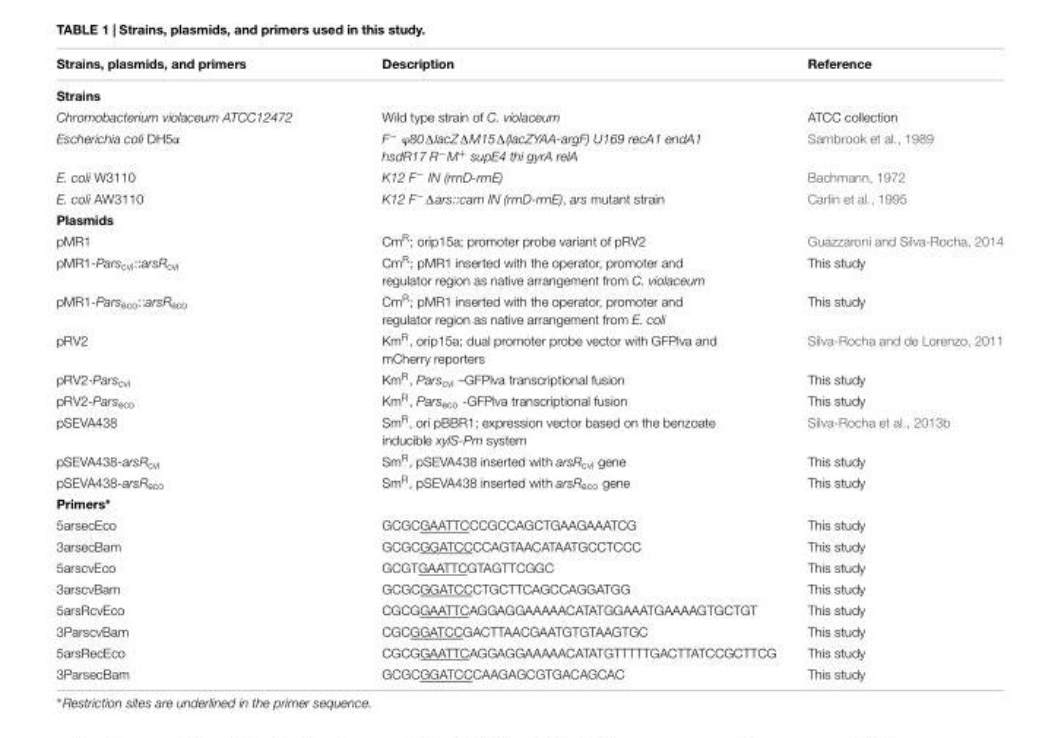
<table><thead><tr><td>Strains, plasmids, and primers</td><td>Description</td><td>Reference</td></tr></thead><tbody><tr><td colspan="3">Strains</td></tr><tr><td>Chromobacterium violaceum ATCC12472</td><td>Wild type strain of C. violaceum</td><td>ATCC collection</td></tr><tr><td>Escherichia coli DH5α</td><td>F<sup>−</sup> ϕ80ΔlacZΔM15Δ(lacZYAA-argF) U169 recA1 endA1 hsdR17 R<sup>−</sup>M<sup>+</sup> supE4 thi gyrA relA</td><td>Sambrook et al., 1989</td></tr><tr><td>E. coli W3110</td><td>K12 F<sup>−</sup> IN (rrnD-rrnE)</td><td>Bachmann, 1972</td></tr><tr><td>E. coli AW3110</td><td>K12 F<sup>−</sup>Δars::cam IN (rrnD-rrnE), ars mutant strain</td><td>Carlin et al., 1995</td></tr><tr><td colspan="3">Plasmids</td></tr><tr><td>pMR1</td><td>Cm<sup>R</sup>; orip15a; promoter probe variant of pRV2</td><td>Guazzaroni and Silva-Rocha, 2014</td></tr><tr><td>pMR1-Pars<sub>cvi</sub>::arsR<sub>cvi</sub></td><td>Cm<sup>R</sup>; pMR1 inserted with the operator, promoter and regulator region as native arrangement from C. violaceum</td><td>This study</td></tr><tr><td>pMR1-Pars<sub>eco</sub>::arsR<sub>eco</sub></td><td>Cm<sup>R</sup>; pMR1 inserted with the operator, promoter and regulator region as native arrangement from E. coli</td><td>This study</td></tr><tr><td>pRV2</td><td>Km<sup>R</sup>, orip15a; dual promoter probe vector with GFPlva and mCherry reporters</td><td>Silva-Rocha and de Lorenzo, 2011</td></tr><tr><td>pRV2-Pars<sub>cvi</sub></td><td>Km<sup>R</sup>, Pars<sub>cvi</sub> –GFPlva transcriptional fusion</td><td>This study</td></tr><tr><td>pRV2-Pars<sub>eco</sub></td><td>Km<sup>R</sup>, Pars<sub>eco</sub> -GFPlva transcriptional fusion</td><td>This study</td></tr><tr><td>pSEVA438</td><td>Sm<sup>R</sup>, ori pBBR1; expression vector based on the benzoate inducible xylS-Pm system</td><td>Silva-Rocha et al., 2013b</td></tr><tr><td>pSEVA438-arsR<sub>cvi</sub></td><td>Sm<sup>R</sup>, pSEVA438 inserted with arsR<sub>cvi</sub> gene</td><td>This study</td></tr><tr><td>pSEVA438-arsR<sub>eco</sub></td><td>Sm<sup>R</sup>, pSEVA438 inserted with arsR<sub>eco</sub> gene</td><td>This study</td></tr><tr><td colspan="3">Primers∗</td></tr><tr><td>5arsecEco</td><td>GCGCGAATTCCCGCCAGCTGAAGAAATCG</td><td>This study</td></tr><tr><td>3arsecBam</td><td>GCGCGGATCCCCAGTAACATAATGCCTCCC</td><td>This study</td></tr><tr><td>5arscvEco</td><td>GCGTGAATTCGTAGTTCGGC</td><td>This study</td></tr><tr><td>3arscvBam</td><td>GCGCGGATCCCTGCTTCAGCCAGGATGG</td><td>This study</td></tr><tr><td>5arsRcvEco</td><td>CGCGGAATTCAGGAGGAAAAACATATGGAAATGAAAAGTGCTGT</td><td>This study</td></tr><tr><td>3ParscvBam</td><td>CGCGGATCCGACTTAACGAATGTGTAAGTGC</td><td>This study</td></tr><tr><td>5arsRecEco</td><td>CGCGGAATTCAGGAGGAAAAACATATGTTTTTGACTTATCCGCTTCG</td><td>This study</td></tr><tr><td>3ParsecBam</td><td>GCGCGGATCCCAAGAGCGTGACAGCAC</td><td>This study</td></tr></tbody></table>